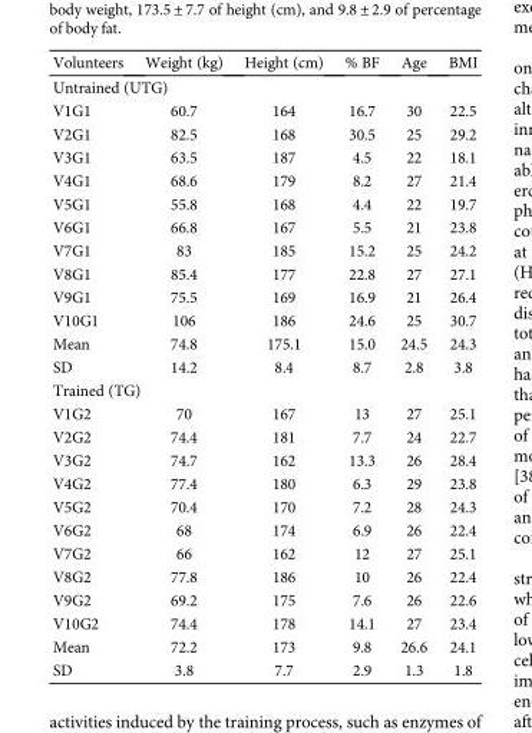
<table><thead><tr><td>Volunteers</td><td>Weight (kg)</td><td>Height (cm)</td><td>% BF</td><td>Age</td><td>BMI</td></tr></thead><tbody><tr><td colspan="6">Untrained (UTG)</td></tr><tr><td>V1G1</td><td>60.7</td><td>164</td><td>16.7</td><td>30</td><td>22.5</td></tr><tr><td>V2G1</td><td>82.5</td><td>168</td><td>30.5</td><td>25</td><td>29.2</td></tr><tr><td>V3G1</td><td>63.5</td><td>187</td><td>4.5</td><td>22</td><td>18.1</td></tr><tr><td>V4G1</td><td>68.6</td><td>179</td><td>8.2</td><td>27</td><td>21.4</td></tr><tr><td>V5G1</td><td>55.8</td><td>168</td><td>4.4</td><td>22</td><td>19.7</td></tr><tr><td>V6G1</td><td>66.8</td><td>167</td><td>5.5</td><td>21</td><td>23.8</td></tr><tr><td>V7G1</td><td>83</td><td>185</td><td>15.2</td><td>25</td><td>24.2</td></tr><tr><td>V8G1</td><td>85.4</td><td>177</td><td>22.8</td><td>27</td><td>27.1</td></tr><tr><td>V9G1</td><td>75.5</td><td>169</td><td>16.9</td><td>21</td><td>26.4</td></tr><tr><td>V10G1</td><td>106</td><td>186</td><td>24.6</td><td>25</td><td>30.7</td></tr><tr><td>Mean</td><td>74.8</td><td>175.1</td><td>15.0</td><td>24.5</td><td>24.3</td></tr><tr><td>SD</td><td>14.2</td><td>8.4</td><td>8.7</td><td>2.8</td><td>3.8</td></tr><tr><td colspan="6">Trained (TG)</td></tr><tr><td>V1G2</td><td>70</td><td>167</td><td>13</td><td>27</td><td>25.1</td></tr><tr><td>V2G2</td><td>74.4</td><td>181</td><td>7.7</td><td>24</td><td>22.7</td></tr><tr><td>V3G2</td><td>74.7</td><td>162</td><td>13.3</td><td>26</td><td>28.4</td></tr><tr><td>V4G2</td><td>77.4</td><td>180</td><td>6.3</td><td>29</td><td>23.8</td></tr><tr><td>V5G2</td><td>70.4</td><td>170</td><td>7.2</td><td>28</td><td>24.3</td></tr><tr><td>V6G2</td><td>68</td><td>174</td><td>6.9</td><td>26</td><td>22.4</td></tr><tr><td>V7G2</td><td>66</td><td>162</td><td>12</td><td>27</td><td>25.1</td></tr><tr><td>V8G2</td><td>77.8</td><td>186</td><td>10</td><td>26</td><td>22.4</td></tr><tr><td>V9G2</td><td>69.2</td><td>175</td><td>7.6</td><td>26</td><td>22.6</td></tr><tr><td>V10G2</td><td>74.4</td><td>178</td><td>14.1</td><td>27</td><td>23.4</td></tr><tr><td>Mean</td><td>72.2</td><td>173</td><td>9.8</td><td>26.6</td><td>24.1</td></tr><tr><td>SD</td><td>3.8</td><td>7.7</td><td>2.9</td><td>1.3</td><td>1.8</td></tr></tbody></table>